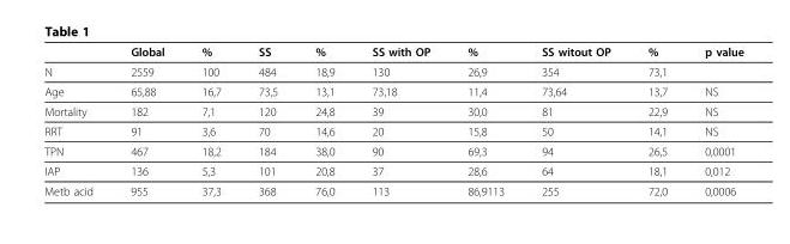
<table><thead><tr><td></td><td>Global</td><td>%</td><td>SS</td><td>%</td><td>SS with OP</td><td>%</td><td>SS witout OP</td><td>%</td><td>p value</td></tr></thead><tbody><tr><td>N</td><td>2559</td><td>100</td><td>484</td><td>18,9</td><td>130</td><td>26,9</td><td>354</td><td>73,1</td><td></td></tr><tr><td>Age</td><td>65,88</td><td>16,7</td><td>73,5</td><td>13,1</td><td>73,18</td><td>11,4</td><td>73,64</td><td>13,7</td><td>NS</td></tr><tr><td>Mortality</td><td>182</td><td>7,1</td><td>120</td><td>24,8</td><td>39</td><td>30,0</td><td>81</td><td>22,9</td><td>NS</td></tr><tr><td>RRT</td><td>91</td><td>3,6</td><td>70</td><td>14,6</td><td>20</td><td>15,8</td><td>50</td><td>14,1</td><td>NS</td></tr><tr><td>TPN</td><td>467</td><td>18,2</td><td>184</td><td>38,0</td><td>90</td><td>69,3</td><td>94</td><td>26,5</td><td>0,0001</td></tr><tr><td>IAP</td><td>136</td><td>5,3</td><td>101</td><td>20,8</td><td>37</td><td>28,6</td><td>64</td><td>18,1</td><td>0,012</td></tr><tr><td>Metb acid</td><td>955</td><td>37,3</td><td>368</td><td>76,0</td><td>113</td><td>86,9113</td><td>255</td><td>72,0</td><td>0,0006</td></tr></tbody></table>